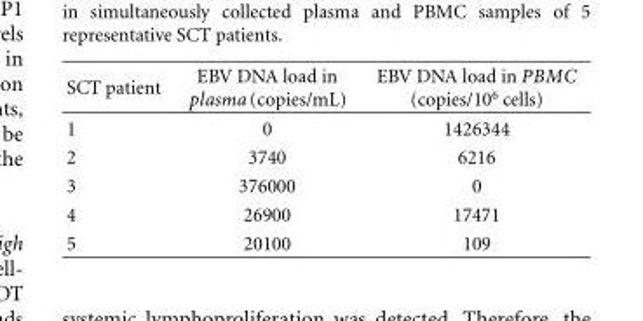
<table><thead><tr><td>SCT patient</td><td>EBV DNA load in plasma (copies/mL)</td><td>EBV DNA load in PBMC (copies/10<sup>6</sup> cells)</td></tr></thead><tbody><tr><td>1</td><td>0</td><td>1426344</td></tr><tr><td>2</td><td>3740</td><td>6216</td></tr><tr><td>3</td><td>376000</td><td>0</td></tr><tr><td>4</td><td>26900</td><td>17471</td></tr><tr><td>5</td><td>20100</td><td>109</td></tr></tbody></table>